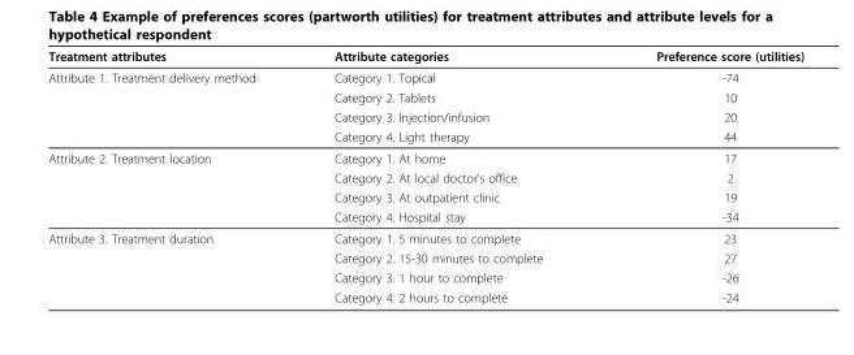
<table><thead><tr><td>Treatment attributes</td><td>Attribute categories</td><td>Preference score (utilities)</td></tr></thead><tbody><tr><td rowspan="4">Attribute 1. Treatment delivery method</td><td>Category 1. Topical</td><td>-74</td></tr><tr><td>Category 2. Tablets</td><td>10</td></tr><tr><td>Category 3. Injection/infusion</td><td>20</td></tr><tr><td>Category 4. Light therapy</td><td>44</td></tr><tr><td rowspan="4">Attribute 2. Treatment location</td><td>Category 1. At home</td><td>17</td></tr><tr><td>Category 2. At local doctor’s office</td><td>2</td></tr><tr><td>Category 3. At outpatient clinic</td><td>19</td></tr><tr><td>Category 4. Hospital stay</td><td>-34</td></tr><tr><td rowspan="4">Attribute 3. Treatment duration</td><td>Category 1. 5 minutes to complete</td><td>23</td></tr><tr><td>Category 2. 15-30 minutes to complete</td><td>27</td></tr><tr><td>Category 3. 1 hour to complete</td><td>-26</td></tr><tr><td>Category 4. 2 hours to complete</td><td>-24</td></tr></tbody></table>